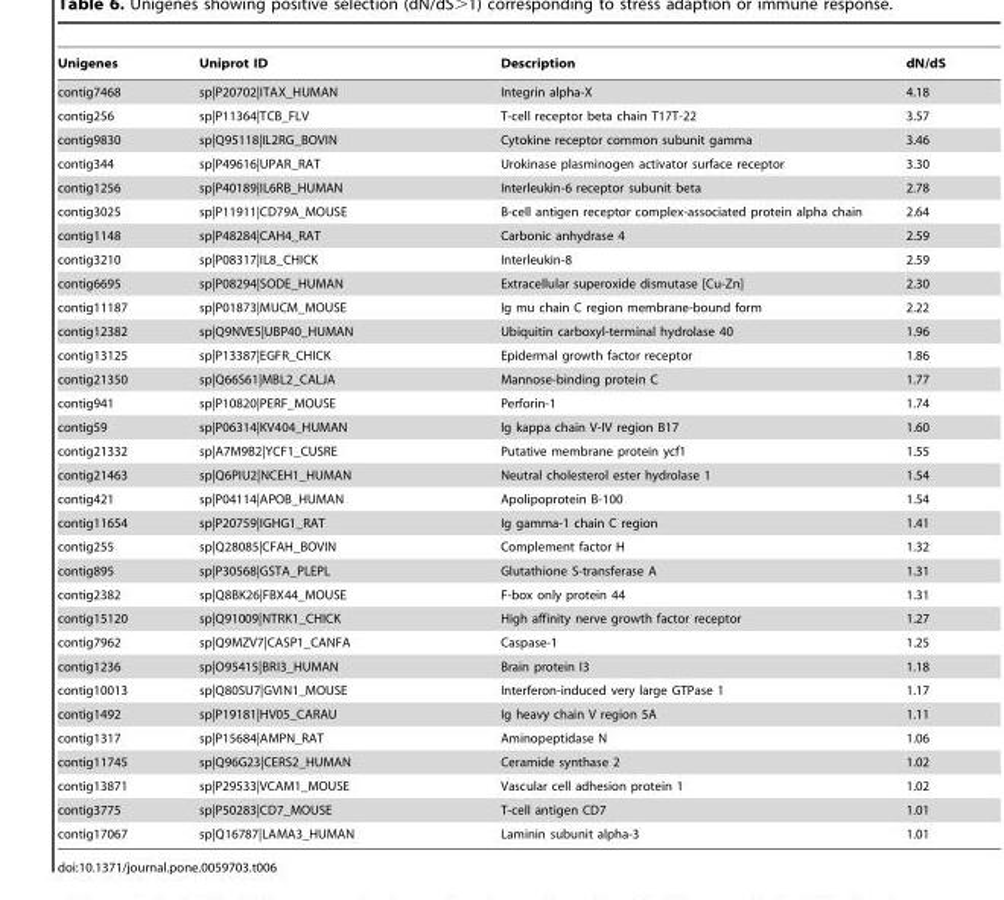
<table><thead><tr><td>Unigenes</td><td>Uniprot ID</td><td>Description</td><td>dN/dS</td></tr></thead><tbody><tr><td>contig7468</td><td>sp|P20702|ITAX_HUMAN</td><td>Integrin alpha-X</td><td>4.18</td></tr><tr><td>contig256</td><td>sp|P11364|TCB_FLV</td><td>T-cell receptor beta chain T17T-22</td><td>3.57</td></tr><tr><td>contig9830</td><td>sp|Q95118|IL2RG_BOVIN</td><td>Cytokine receptor common subunit gamma</td><td>3.46</td></tr><tr><td>contig344</td><td>sp|P49616|UPAR_RAT</td><td>Urokinase plasminogen activator surface receptor</td><td>3.30</td></tr><tr><td>contig1256</td><td>sp|P40189|IL6RB_HUMAN</td><td>Interleukin-6 receptor subunit beta</td><td>2.78</td></tr><tr><td>contig3025</td><td>sp|P11911|CD79A_MOUSE</td><td>B-cell antigen receptor complex-associated protein alpha chain</td><td>2.64</td></tr><tr><td>contig1148</td><td>sp|P48284|CAH4_RAT</td><td>Carbonic anhydrase 4</td><td>2.59</td></tr><tr><td>contig3210</td><td>sp|P08317|IL8_CHICK</td><td>Interleukin-8</td><td>2.59</td></tr><tr><td>contig6695</td><td>sp|P08294|SODE_HUMAN</td><td>Extracellular superoxide dismutase [Cu-Zn]</td><td>2.30</td></tr><tr><td>contig11187</td><td>sp|P01873|MUCM_MOUSE</td><td>Ig mu chain C region membrane-bound form</td><td>2.22</td></tr><tr><td>contig12382</td><td>sp|Q9NVE5|UBP40_HUMAN</td><td>Ubiquitin carboxyl-terminal hydrolase 40</td><td>1.96</td></tr><tr><td>contig13125</td><td>sp|P13387|EGFR_CHICK</td><td>Epidermal growth factor receptor</td><td>1.86</td></tr><tr><td>contig21350</td><td>sp|Q66S61|MBL2_CALJA</td><td>Mannose-binding protein C</td><td>1.77</td></tr><tr><td>contig941</td><td>sp|P10820|PERF_MOUSE</td><td>Perforin-1</td><td>1.74</td></tr><tr><td>contig59</td><td>sp|P06314|KV404_HUMAN</td><td>Ig kappa chain V-IV region B17</td><td>1.60</td></tr><tr><td>contig21332</td><td>sp|A7M9B2|YCF1_CUSRE</td><td>Putative membrane protein ycf1</td><td>1.55</td></tr><tr><td>contig21463</td><td>sp|Q6PIU2|NCEH1_HUMAN</td><td>Neutral cholesterol ester hydrolase 1</td><td>1.54</td></tr><tr><td>contig421</td><td>sp|P04114|APOB_HUMAN</td><td>Apolipoprotein B-100</td><td>1.54</td></tr><tr><td>contig11654</td><td>sp|P20759|IGHG1_RAT</td><td>Ig gamma-1 chain C region</td><td>1.41</td></tr><tr><td>contig255</td><td>sp|Q28085|CFAH_BOVIN</td><td>Complement factor H</td><td>1.32</td></tr><tr><td>contig895</td><td>sp|P30568|GSTA_PLEPL</td><td>Glutathione S-transferase A</td><td>1.31</td></tr><tr><td>contig2382</td><td>sp|Q8BK26|FBX44_MOUSE</td><td>F-box only protein 44</td><td>1.31</td></tr><tr><td>contig15120</td><td>sp|Q91009|NTRK1_CHICK</td><td>High affinity nerve growth factor receptor</td><td>1.27</td></tr><tr><td>contig7962</td><td>sp|Q9MZV7|CASP1_CANFA</td><td>Caspase-1</td><td>1.25</td></tr><tr><td>contig1236</td><td>sp|O95415|BRI3_HUMAN</td><td>Brain protein I3</td><td>1.18</td></tr><tr><td>contig10013</td><td>sp|Q80SU7|GVIN1_MOUSE</td><td>Interferon-induced very large GTPase 1</td><td>1.17</td></tr><tr><td>contig1492</td><td>sp|P19181|HV05_CARAU</td><td>Ig heavy chain V region 5A</td><td>1.11</td></tr><tr><td>contig1317</td><td>sp|P15684|AMPN_RAT</td><td>Aminopeptidase N</td><td>1.06</td></tr><tr><td>contig11745</td><td>sp|Q96G23|CERS2_HUMAN</td><td>Ceramide synthase 2</td><td>1.02</td></tr><tr><td>contig13871</td><td>sp|P29533|VCAM1_MOUSE</td><td>Vascular cell adhesion protein 1</td><td>1.02</td></tr><tr><td>contig3775</td><td>sp|P50283|CD7_MOUSE</td><td>T-cell antigen CD7</td><td>1.01</td></tr><tr><td>contig17067</td><td>sp|Q16787|LAMA3_HUMAN</td><td>Laminin subunit alpha-3</td><td>1.01</td></tr></tbody></table>